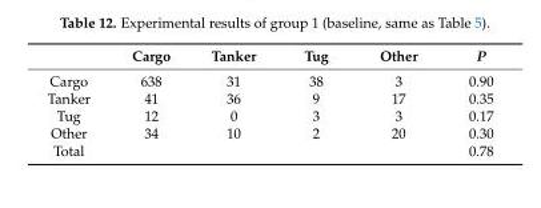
<table><thead><tr><td></td><td>Cargo</td><td>Tanker</td><td>Tug</td><td>Other</td><td>P</td></tr></thead><tbody><tr><td>Cargo</td><td>638</td><td>31</td><td>38</td><td>3</td><td>0.90</td></tr><tr><td>Tanker</td><td>41</td><td>36</td><td>9</td><td>17</td><td>0.35</td></tr><tr><td>Tug</td><td>12</td><td>0</td><td>3</td><td>3</td><td>0.17</td></tr><tr><td>Other</td><td>34</td><td>10</td><td>2</td><td>20</td><td>0.30</td></tr><tr><td>Total</td><td></td><td></td><td></td><td></td><td>0.78</td></tr></tbody></table>